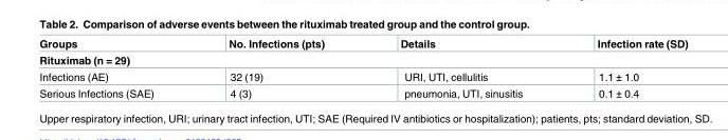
<table><thead><tr><td>Groups</td><td>No. Infections (pts)</td><td>Details</td><td>Infection rate (SD)</td></tr><tr><td colspan="4">Rituximab (n = 29)</td></tr></thead><tbody><tr><td>Infections (AE)</td><td>32 (19)</td><td>URI, UTI, cellulitis</td><td>1.1 ± 1.0</td></tr><tr><td>Serious Infections (SAE)</td><td>4 (3)</td><td>pneumonia, UTI, sinusitis</td><td>0.1 ± 0.4</td></tr></tbody></table>